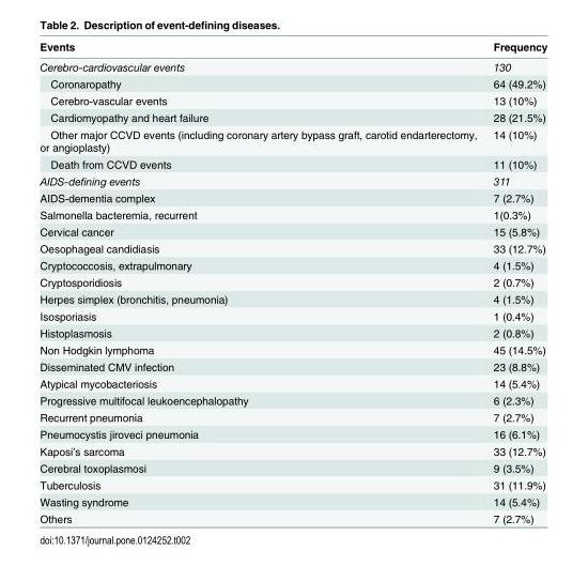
<table><thead><tr><td>Events</td><td>Frequency</td></tr></thead><tbody><tr><td>Cerebro-cardiovascular events</td><td>130</td></tr><tr><td>Coronaropathy</td><td>64 (49.2%)</td></tr><tr><td>Cerebro-vascular events</td><td>13 (10%)</td></tr><tr><td>Cardiomyopathy and heart failure</td><td>28 (21.5%)</td></tr><tr><td>Other major CCVD events (including coronary artery bypass graft, carotid endarterectomy, or angioplasty)</td><td>14 (10%)</td></tr><tr><td>Death from CCVD events</td><td>11 (10%)</td></tr><tr><td>AIDS-defining events</td><td>311</td></tr><tr><td>AIDS-dementia complex</td><td>7 (2.7%)</td></tr><tr><td>Salmonella bacteremia, recurrent</td><td>1(0.3%)</td></tr><tr><td>Cervical cancer</td><td>15 (5.8%)</td></tr><tr><td>Oesophageal candidiasis</td><td>33 (12.7%)</td></tr><tr><td>Cryptococcosis, extrapulmonary</td><td>4 (1.5%)</td></tr><tr><td>Cryptosporidiosis</td><td>2 (0.7%)</td></tr><tr><td>Herpes simplex (bronchitis, pneumonia)</td><td>4 (1.5%)</td></tr><tr><td>Isosporiasis</td><td>1 (0.4%)</td></tr><tr><td>Histoplasmosis</td><td>2 (0.8%)</td></tr><tr><td>Non Hodgkin lymphoma</td><td>45 (14.5%)</td></tr><tr><td>Disseminated CMV infection</td><td>23 (8.8%)</td></tr><tr><td>Atypical mycobacteriosis</td><td>14 (5.4%)</td></tr><tr><td>Progressive multifocal leukoencephalopathy</td><td>6 (2.3%)</td></tr><tr><td>Recurrent pneumonia</td><td>7 (2.7%)</td></tr><tr><td>Pneumocystis jiroveci pneumonia</td><td>16 (6.1%)</td></tr><tr><td>Kaposi’s sarcoma</td><td>33 (12.7%)</td></tr><tr><td>Cerebral toxoplasmosi</td><td>9 (3.5%)</td></tr><tr><td>Tuberculosis</td><td>31 (11.9%)</td></tr><tr><td>Wasting syndrome</td><td>14 (5.4%)</td></tr><tr><td>Others</td><td>7 (2.7%)</td></tr></tbody></table>